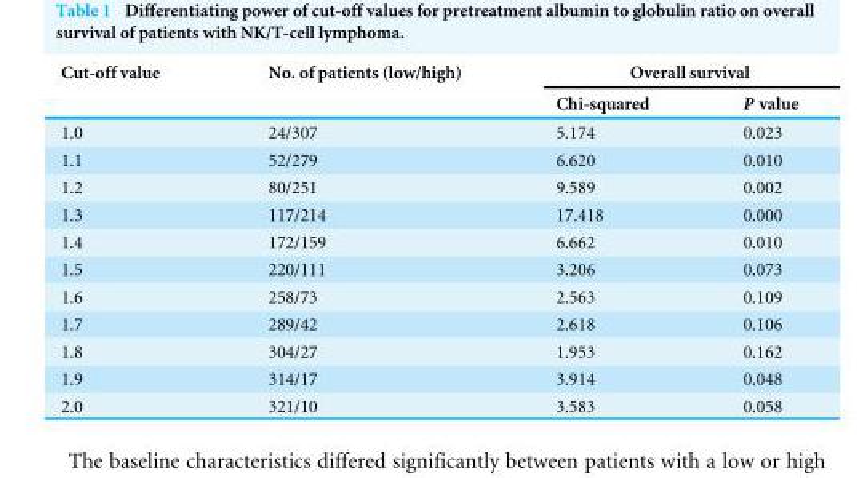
<table><thead><tr><td rowspan="2">Cut-off value</td><td rowspan="2">No. of patients (low/high)</td><td colspan="2">Overall survival</td></tr><tr><td>Chi-squared</td><td>P value</td></tr></thead><tbody><tr><td>1.0</td><td>24/307</td><td>5.174</td><td>0.023</td></tr><tr><td>1.1</td><td>52/279</td><td>6.620</td><td>0.010</td></tr><tr><td>1.2</td><td>80/251</td><td>9.589</td><td>0.002</td></tr><tr><td>1.3</td><td>117/214</td><td>17.418</td><td>0.000</td></tr><tr><td>1.4</td><td>172/159</td><td>6.662</td><td>0.010</td></tr><tr><td>1.5</td><td>220/111</td><td>3.206</td><td>0.073</td></tr><tr><td>1.6</td><td>258/73</td><td>2.563</td><td>0.109</td></tr><tr><td>1.7</td><td>289/42</td><td>2.618</td><td>0.106</td></tr><tr><td>1.8</td><td>304/27</td><td>1.953</td><td>0.162</td></tr><tr><td>1.9</td><td>314/17</td><td>3.914</td><td>0.048</td></tr><tr><td>2.0</td><td>321/10</td><td>3.583</td><td>0.058</td></tr></tbody></table>